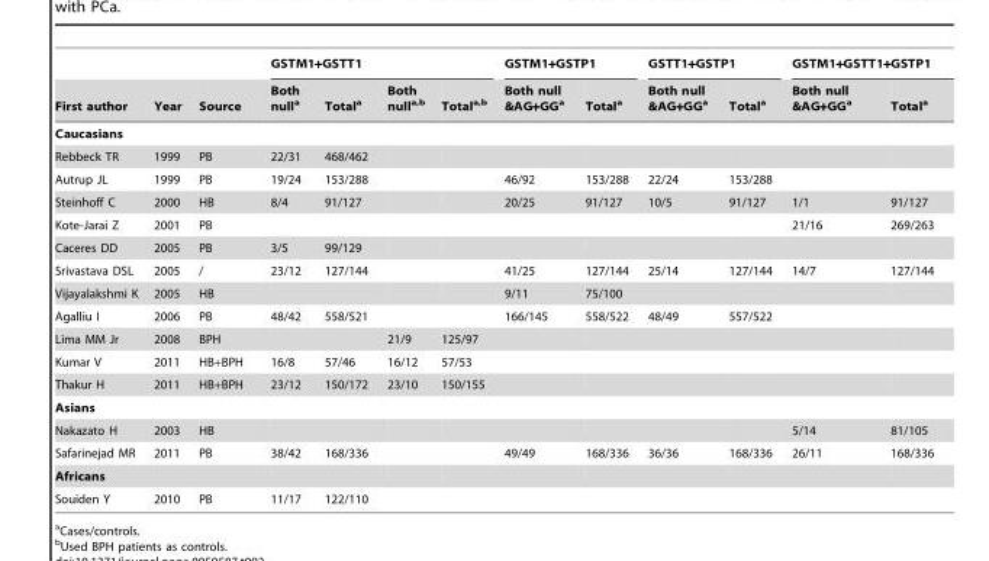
<table><thead><tr><td rowspan="2">First author</td><td rowspan="2">Year</td><td rowspan="2">Source</td><td colspan="4">GSTM1+GSTT1</td><td colspan="2">GSTM1+GSTP1</td><td colspan="2">GSTT1+GSTP1</td><td colspan="2">GSTM1+GSTT1+GSTP1</td></tr><tr><td>Both null<sup>a</sup></td><td>Total<sup>a</sup></td><td>Both nulla,b</td><td>Totala,b</td><td>Both null &amp;AG+GG<sup>a</sup></td><td>Total<sup>a</sup></td><td>Both null &amp;AG+GG<sup>a</sup></td><td>Total<sup>a</sup></td><td>Both null &amp;AG+GG<sup>a</sup></td><td>Total<sup>a</sup></td></tr></thead><tbody><tr><td colspan="13">Caucasians</td></tr><tr><td>Rebbeck TR</td><td>1999</td><td>PB</td><td>22/31</td><td>468/462</td><td></td><td></td><td></td><td></td><td></td><td></td><td></td><td></td></tr><tr><td>Autrup JL</td><td>1999</td><td>PB</td><td>19/24</td><td>153/288</td><td></td><td></td><td>46/92</td><td>153/288</td><td>22/24</td><td>153/288</td><td></td><td></td></tr><tr><td>Steinhoff C</td><td>2000</td><td>HB</td><td>8/4</td><td>91/127</td><td></td><td></td><td>20/25</td><td>91/127</td><td>10/5</td><td>91/127</td><td>1/1</td><td>91/127</td></tr><tr><td>Kote-Jarai Z</td><td>2001</td><td>PB</td><td></td><td></td><td></td><td></td><td></td><td></td><td></td><td></td><td>21/16</td><td>269/263</td></tr><tr><td>Caceres DD</td><td>2005</td><td>PB</td><td>3/5</td><td>99/129</td><td></td><td></td><td></td><td></td><td></td><td></td><td></td><td></td></tr><tr><td>Srivastava DSL</td><td>2005</td><td>/</td><td>23/12</td><td>127/144</td><td></td><td></td><td>41/25</td><td>127/144</td><td>25/14</td><td>127/144</td><td>14/7</td><td>127/144</td></tr><tr><td>Vijayalakshmi K</td><td>2005</td><td>HB</td><td></td><td></td><td></td><td></td><td>9/11</td><td>75/100</td><td></td><td></td><td></td><td></td></tr><tr><td>Agalliu I</td><td>2006</td><td>PB</td><td>48/42</td><td>558/521</td><td></td><td></td><td>166/145</td><td>558/522</td><td>48/49</td><td>557/522</td><td></td><td></td></tr><tr><td>Lima MM Jr</td><td>2008</td><td>BPH</td><td></td><td></td><td>21/9</td><td>125/97</td><td></td><td></td><td></td><td></td><td></td><td></td></tr><tr><td>Kumar V</td><td>2011</td><td>HB+BPH</td><td>16/8</td><td>57/46</td><td>16/12</td><td>57/53</td><td></td><td></td><td></td><td></td><td></td><td></td></tr><tr><td>Thakur H</td><td>2011</td><td>HB+BPH</td><td>23/12</td><td>150/172</td><td>23/10</td><td>150/155</td><td></td><td></td><td></td><td></td><td></td><td></td></tr><tr><td colspan="13">Asians</td></tr><tr><td>Nakazato H</td><td>2003</td><td>HB</td><td></td><td></td><td></td><td></td><td></td><td></td><td></td><td></td><td>5/14</td><td>81/105</td></tr><tr><td>Safarinejad MR</td><td>2011</td><td>PB</td><td>38/42</td><td>168/336</td><td></td><td></td><td>49/49</td><td>168/336</td><td>36/36</td><td>168/336</td><td>26/11</td><td>168/336</td></tr><tr><td colspan="13">Africans</td></tr><tr><td>Souiden Y</td><td>2010</td><td>PB</td><td>11/17</td><td>122/110</td><td></td><td></td><td></td><td></td><td></td><td></td><td></td><td></td></tr></tbody></table>